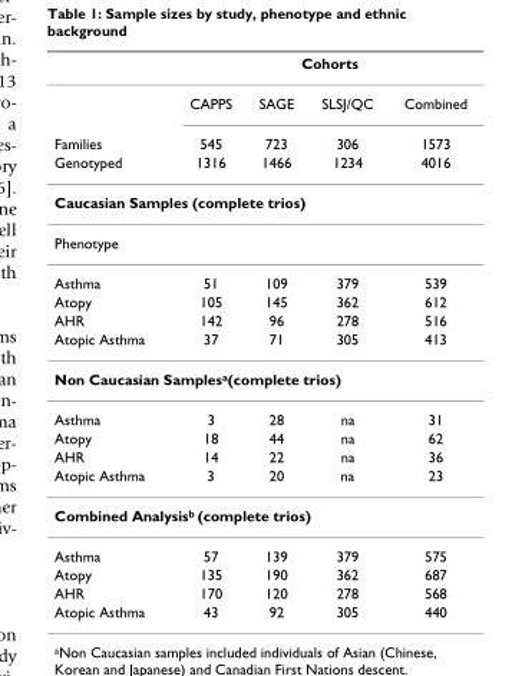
<table><thead><tr><td rowspan="2"></td><td colspan="4">Cohorts</td></tr><tr><td>CAPPS</td><td>SAGE</td><td>SLSJ/QC</td><td>Combined</td></tr></thead><tbody><tr><td>Families</td><td>545</td><td>723</td><td>306</td><td>1573</td></tr><tr><td>Genotyped</td><td>1316</td><td>1466</td><td>1234</td><td>4016</td></tr><tr><td colspan="5">Caucasian Samples (complete trios)</td></tr><tr><td colspan="5">Phenotype</td></tr><tr><td>Asthma</td><td>51</td><td>109</td><td>379</td><td>539</td></tr><tr><td>Atopy</td><td>105</td><td>145</td><td>362</td><td>612</td></tr><tr><td>AHR</td><td>142</td><td>96</td><td>278</td><td>516</td></tr><tr><td>Atopic Asthma</td><td>37</td><td>71</td><td>305</td><td>413</td></tr><tr><td colspan="5">Non Caucasian Samples<sup>a</sup>(complete trios)</td></tr><tr><td>Asthma</td><td>3</td><td>28</td><td>na</td><td>31</td></tr><tr><td>Atopy</td><td>18</td><td>44</td><td>na</td><td>62</td></tr><tr><td>AHR</td><td>14</td><td>22</td><td>na</td><td>36</td></tr><tr><td>Atopic Asthma</td><td>3</td><td>20</td><td>na</td><td>23</td></tr><tr><td colspan="5">Combined Analysis<sup>b</sup> (complete trios)</td></tr><tr><td>Asthma</td><td>57</td><td>139</td><td>379</td><td>575</td></tr><tr><td>Atopy</td><td>135</td><td>190</td><td>362</td><td>687</td></tr><tr><td>AHR</td><td>170</td><td>120</td><td>278</td><td>568</td></tr><tr><td>Atopic Asthma</td><td>43</td><td>92</td><td>305</td><td>440</td></tr></tbody></table>